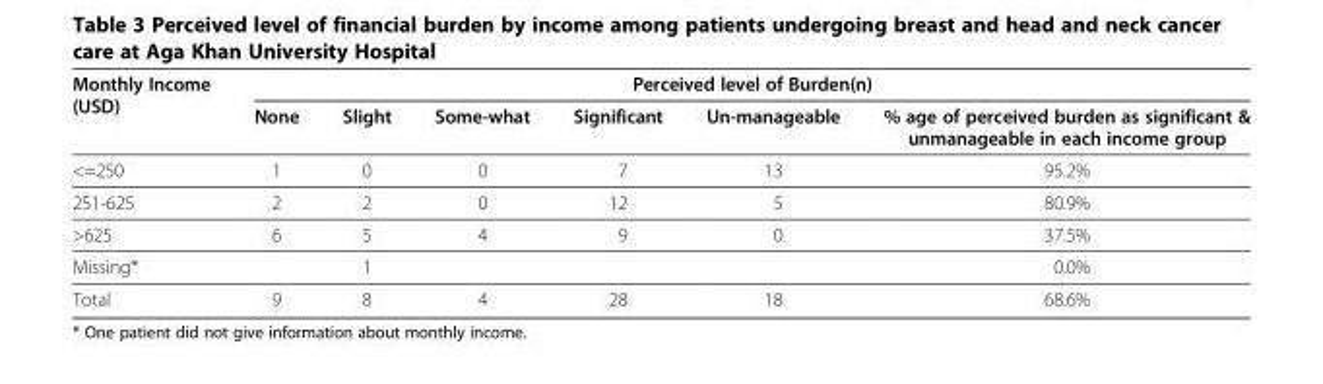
<table><thead><tr><td rowspan="2">Monthly Income (USD)</td><td colspan="6">Perceived level of Burden(n)</td></tr><tr><td>None</td><td>Slight</td><td>Some-what</td><td>Significant</td><td>Un-manageable</td><td>% age of perceived burden as significant &amp; unmanageable in each income group</td></tr></thead><tbody><tr><td>&lt;=250</td><td>1</td><td>0</td><td>0</td><td>7</td><td>13</td><td>95.2%</td></tr><tr><td>251-625</td><td>2</td><td>2</td><td>0</td><td>12</td><td>5</td><td>80.9%</td></tr><tr><td>&gt;625</td><td>6</td><td>5</td><td>4</td><td>9</td><td>0</td><td>37.5%</td></tr><tr><td>Missing*</td><td></td><td>1</td><td></td><td></td><td></td><td>0.0%</td></tr><tr><td>Total</td><td>9</td><td>8</td><td>4</td><td>28</td><td>18</td><td>68.6%</td></tr></tbody></table>